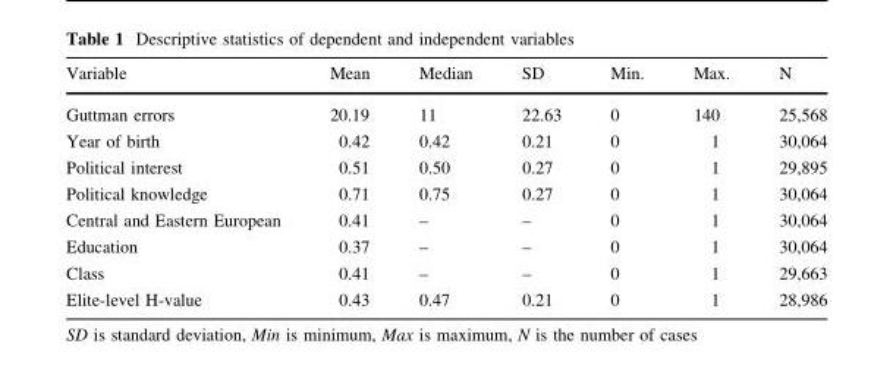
<table><thead><tr><td>Variable</td><td>Mean</td><td>Median</td><td>SD</td><td>Min.</td><td>Max.</td><td>N</td></tr></thead><tbody><tr><td>Guttman errors</td><td>20.19</td><td>11</td><td>22.63</td><td>0</td><td>140</td><td>25,568</td></tr><tr><td>Year of birth</td><td>0.42</td><td>0.42</td><td>0.21</td><td>0</td><td>1</td><td>30,064</td></tr><tr><td>Political interest</td><td>0.51</td><td>0.50</td><td>0.27</td><td>0</td><td>1</td><td>29,895</td></tr><tr><td>Political knowledge</td><td>0.71</td><td>0.75</td><td>0.27</td><td>0</td><td>1</td><td>30,064</td></tr><tr><td>Central and Eastern European</td><td>0.41</td><td>–</td><td>–</td><td>0</td><td>1</td><td>30,064</td></tr><tr><td>Education</td><td>0.37</td><td>–</td><td>–</td><td>0</td><td>1</td><td>30,064</td></tr><tr><td>Class</td><td>0.41</td><td>–</td><td>–</td><td>0</td><td>1</td><td>29,663</td></tr><tr><td>Elite-level H-value</td><td>0.43</td><td>0.47</td><td>0.21</td><td>0</td><td>1</td><td>28,986</td></tr></tbody></table>